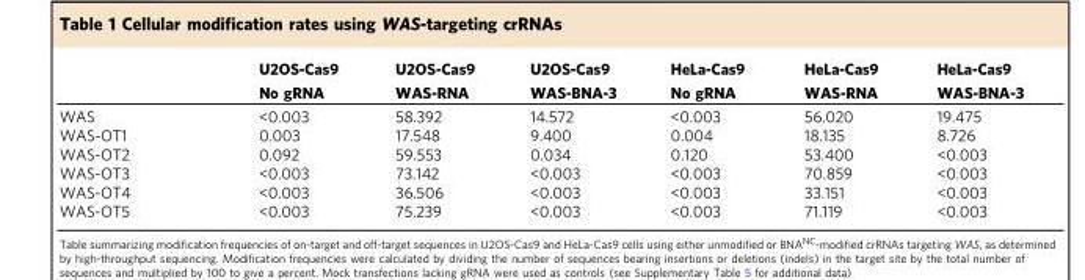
<table><thead><tr><td rowspan="2"></td><td rowspan="2">U2OS-Cas9 No gRNA</td><td rowspan="2">U2OS-Cas9 WAS-RNA</td><td rowspan="2">U2OS-Cas9 WAS-BNA-3</td><td rowspan="2">HeLa-Cas9 No gRNA</td><td rowspan="2">HeLa-Cas9 WAS-RNA</td><td rowspan="2">HeLa-Cas9 WAS-BNA-3</td></tr><tr></tr></thead><tbody><tr><td>WAS</td><td>&lt;0.003</td><td>58.392</td><td>14.572</td><td>&lt;0.003</td><td>56.020</td><td>19.475</td></tr><tr><td>WAS-OT1</td><td>0.003</td><td>17.548</td><td>9.400</td><td>0.004</td><td>18.135</td><td>8.726</td></tr><tr><td>WAS-OT2</td><td>0.092</td><td>59.553</td><td>0.034</td><td>0.120</td><td>53.400</td><td>&lt;0.003</td></tr><tr><td>WAS-OT3</td><td>&lt;0.003</td><td>73.142</td><td>&lt;0.003</td><td>&lt;0.003</td><td>70.859</td><td>&lt;0.003</td></tr><tr><td>WAS-OT4</td><td>&lt;0.003</td><td>36.506</td><td>&lt;0.003</td><td>&lt;0.003</td><td>33.151</td><td>&lt;0.003</td></tr><tr><td>WAS-OT5</td><td>&lt;0.003</td><td>75.239</td><td>&lt;0.003</td><td>&lt;0.003</td><td>71.119</td><td>&lt;0.003</td></tr></tbody></table>